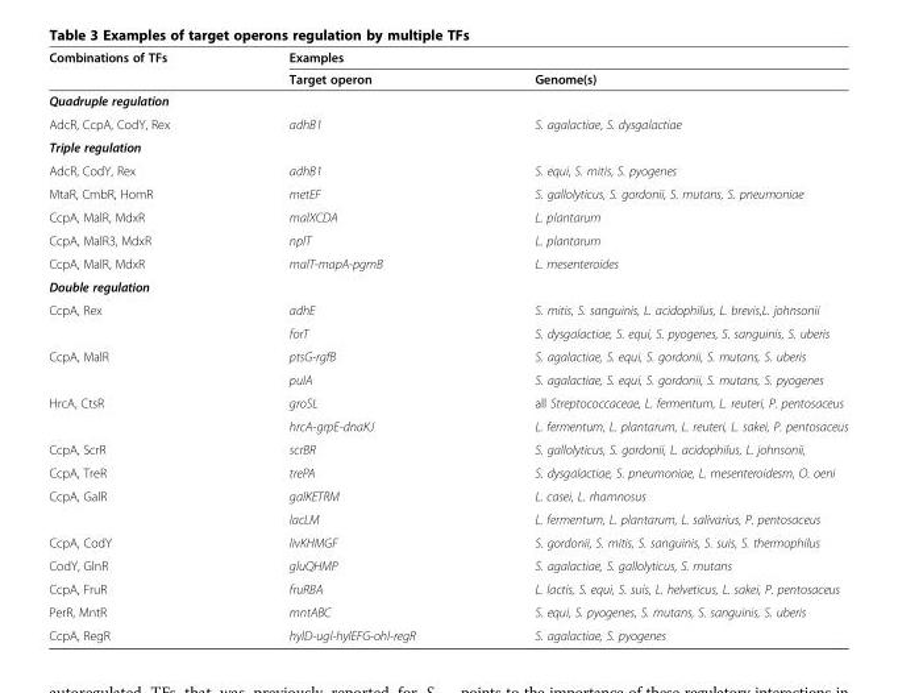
<table><thead><tr><td rowspan="2">Combinations of TFs</td><td colspan="2">Examples</td></tr><tr><td>Target operon</td><td>Genome(s)</td></tr></thead><tbody><tr><td colspan="3">Quadruple regulation</td></tr><tr><td>AdcR, CcpA, CodY, Rex</td><td>adhB1</td><td>S. agalactiae, S. dysgalactiae</td></tr><tr><td colspan="3">Triple regulation</td></tr><tr><td>AdcR, CodY, Rex</td><td>adhB1</td><td>S. equi, S. mitis, S. pyogenes</td></tr><tr><td>MtaR, CmbR, HomR</td><td>metEF</td><td>S. gallolyticus, S. gordonii, S. mutans, S. pneumoniae</td></tr><tr><td>CcpA, MalR, MdxR</td><td>malXCDA</td><td>L. plantarum</td></tr><tr><td>CcpA, MalR3, MdxR</td><td>nplT</td><td>L. plantarum</td></tr><tr><td>CcpA, MalR, MdxR</td><td>malT-mapA-pgmB</td><td>L. mesenteroides</td></tr><tr><td colspan="3">Double regulation</td></tr><tr><td rowspan="2">CcpA, Rex</td><td>adhE</td><td>S. mitis, S. sanguinis, L. acidophilus, L. brevis,L. johnsonii</td></tr><tr><td>forT</td><td>S. dysgalactiae, S. equi, S. pyogenes, S. sanguinis, S. uberis</td></tr><tr><td rowspan="2">CcpA, MalR</td><td>ptsG-rgfB</td><td>S. agalactiae, S. equi, S. gordonii, S. mutans, S. uberis</td></tr><tr><td>pulA</td><td>S. agalactiae, S. equi, S. gordonii, S. mutans, S. pyogenes</td></tr><tr><td rowspan="2">HrcA, CtsR</td><td>groSL</td><td>all Streptococcaceae, L. fermentum, L. reuteri, P. pentosaceus</td></tr><tr><td>hrcA-grpE-dnaKJ</td><td>L. fermentum, L. plantarum, L. reuteri, L. sakei, P. pentosaceus</td></tr><tr><td>CcpA, ScrR</td><td>scrBR</td><td>S. gallolyticus, S. gordonii, L. acidophilus, L. johnsonii,</td></tr><tr><td>CcpA, TreR</td><td>trePA</td><td>S. dysgalactiae, S. pneumoniae, L. mesenteroidesm, O. oeni</td></tr><tr><td rowspan="2">CcpA, GalR</td><td>galKETRM</td><td>L. casei, L. rhamnosus</td></tr><tr><td>lacLM</td><td>L. fermentum, L. plantarum, L. salivarius, P. pentosaceus</td></tr><tr><td>CcpA, CodY</td><td>livKHMGF</td><td>S. gordonii, S. mitis, S. sanguinis, S. suis, S. thermophilus</td></tr><tr><td>CodY, GlnR</td><td>gluQHMP</td><td>S. agalactiae, S. gallolyticus, S. mutans</td></tr><tr><td>CcpA, FruR</td><td>fruRBA</td><td>L. lactis, S. equi, S. suis, L. helveticus, L. sakei, P. pentosaceus</td></tr><tr><td>PerR, MntR</td><td>mntABC</td><td>S. equi, S. pyogenes, S. mutans, S. sanguinis, S. uberis</td></tr><tr><td>CcpA, RegR</td><td>hylD-ugl-hylEFG-ohl-regR</td><td>S. agalactiae, S. pyogenes</td></tr></tbody></table>